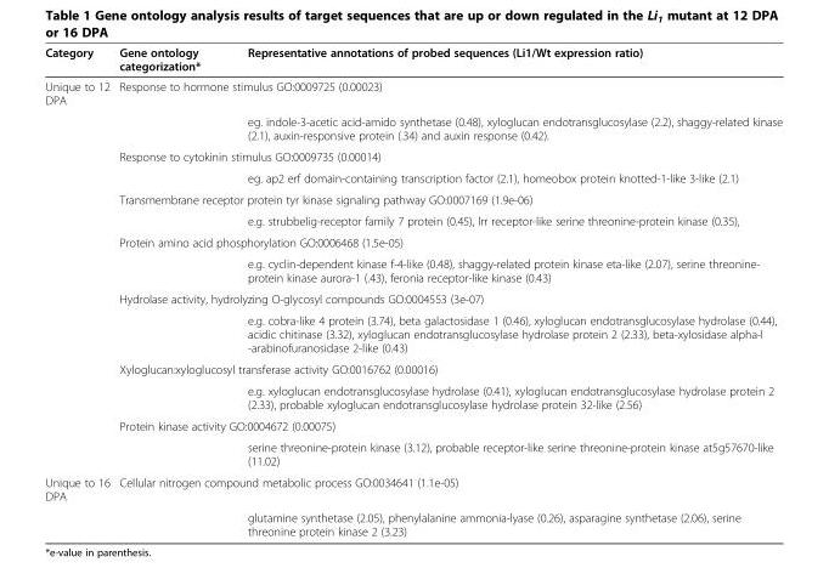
<table><thead><tr><td>Category</td><td>Gene ontology categorization*</td><td>Representative annotations of probed sequences (Li1/Wt expression ratio)</td></tr></thead><tbody><tr><td rowspan="14">Unique to 12 DPA</td><td colspan="2">Response to hormone stimulus GO:0009725 (0.00023)</td></tr><tr><td></td><td>eg. indole-3-acetic acid-amido synthetase (0.48), xyloglucan endotransglucosylase (2.2), shaggy-related kinase (2.1), auxin-responsive protein (.34) and auxin response (0.42).</td></tr><tr><td colspan="2">Response to cytokinin stimulus GO:0009735 (0.00014)</td></tr><tr><td></td><td>eg. ap2 erf domain-containing transcription factor (2.1), homeobox protein knotted-1-like 3-like (2.1)</td></tr><tr><td colspan="2">Transmembrane receptor protein tyr kinase signaling pathway GO:0007169 (1.9e-06)</td></tr><tr><td></td><td>e.g. strubbelig-receptor family 7 protein (0.45), lrr receptor-like serine threonine-protein kinase (0.35),</td></tr><tr><td colspan="2">Protein amino acid phosphorylation GO:0006468 (1.5e-05)</td></tr><tr><td></td><td>e.g. cyclin-dependent kinase f-4-like (0.48), shaggy-related protein kinase eta-like (2.07), serine threonine- protein kinase aurora-1 (.43), feronia receptor-like kinase (0.43)</td></tr><tr><td colspan="2">Hydrolase activity, hydrolyzing O-glycosyl compounds GO:0004553 (3e-07)</td></tr><tr><td></td><td>e.g. cobra-like 4 protein (3.74), beta galactosidase 1 (0.46), xyloglucan endotransglucosylase hydrolase (0.44), acidic chitinase (3.32), xyloglucan endotransglucosylase hydrolase protein 2 (2.33), beta-xylosidase alpha-l -arabinofuranosidase 2-like (0.43)</td></tr><tr><td colspan="2">Xyloglucan:xyloglucosyl transferase activity GO:0016762 (0.00016)</td></tr><tr><td></td><td>e.g. xyloglucan endotransglucosylase hydrolase (0.41), xyloglucan endotransglucosylase hydrolase protein 2 (2.33), probable xyloglucan endotransglucosylase hydrolase protein 32-like (2.56)</td></tr><tr><td colspan="2">Protein kinase activity GO:0004672 (0.00075)</td></tr><tr><td></td><td>serine threonine-protein kinase (3.12), probable receptor-like serine threonine-protein kinase at5g57670-like (11.02)</td></tr><tr><td rowspan="2">Unique to 16 DPA</td><td colspan="2">Cellular nitrogen compound metabolic process GO:0034641 (1.1e-05)</td></tr><tr><td></td><td>glutamine synthetase (2.05), phenylalanine ammonia-lyase (0.26), asparagine synthetase (2.06), serine threonine protein kinase 2 (3.23)</td></tr></tbody></table>